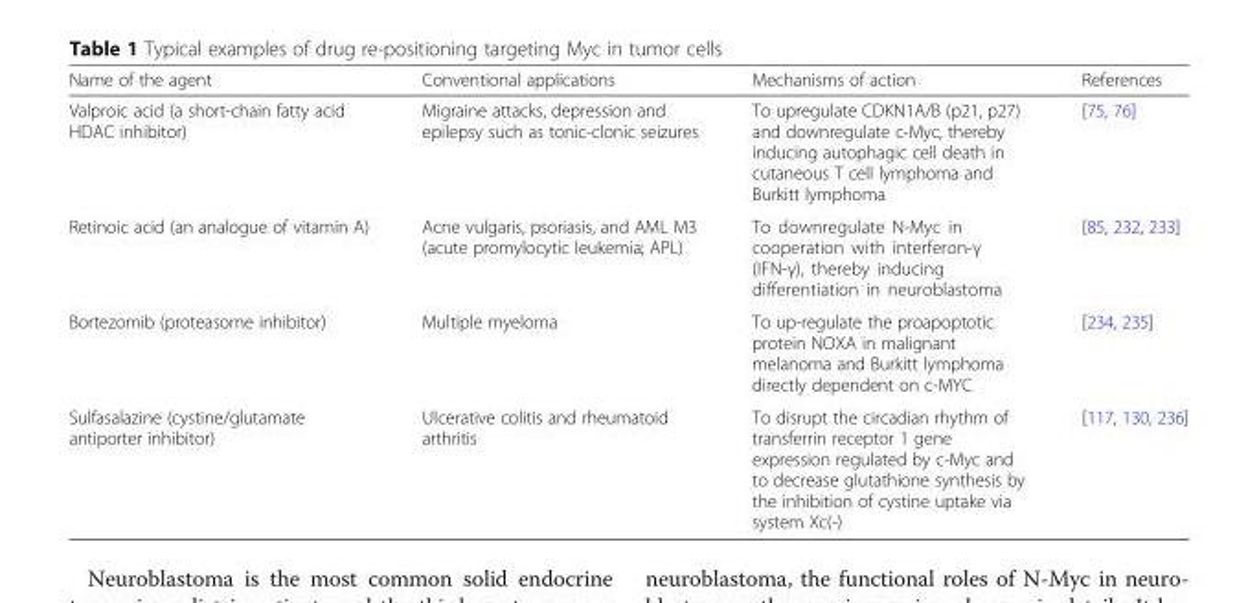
<table><thead><tr><td>Name of the agent</td><td>Conventional applications</td><td>Mechanisms of action</td><td>References</td></tr></thead><tbody><tr><td>Valproic acid (a short-chain fatty acid HDAC inhibitor)</td><td>Migraine attacks, depression and epilepsy such as tonic-clonic seizures</td><td>To upregulate CDKN1A/B (p21, p27) and downregulate c-Myc, thereby inducing autophagic cell death in cutaneous T cell lymphoma and Burkitt lymphoma</td><td>[75, 76]</td></tr><tr><td>Retinoic acid (an analogue of vitamin A)</td><td>Acne vulgaris, psoriasis, and AML M3 (acute promylocytic leukemia; APL)</td><td>To downregulate N-Myc in cooperation with interferon-γ (IFN-γ), thereby inducing differentiation in neuroblastoma</td><td>[85, 232, 233]</td></tr><tr><td>Bortezomib (proteasome inhibitor)</td><td>Multiple myeloma</td><td>To up-regulate the proapoptotic protein NOXA in malignant melanoma and Burkitt lymphoma directly dependent on c-MYC</td><td>[234, 235]</td></tr><tr><td>Sulfasalazine (cystine/glutamate antiporter inhibitor)</td><td>Ulcerative colitis and rheumatoid arthritis</td><td>To disrupt the circadian rhythm of transferrin receptor 1 gene expression regulated by c-Myc and to decrease glutathione synthesis by the inhibition of cystine uptake via system Xc(-)</td><td>[117, 130, 236]</td></tr></tbody></table>